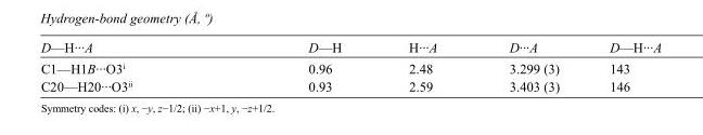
<table><tbody><tr><td>D—H···A</td><td>D—H</td><td>H···A</td><td>D···A</td><td>D—H···A</td></tr><tr><td>C1—H1B···O3<sup>i</sup></td><td>0.96</td><td>2.48</td><td>3.299 (3)</td><td>143</td></tr><tr><td>C20—H20···O3<sup>ii</sup></td><td>0.93</td><td>2.59</td><td>3.403 (3)</td><td>146</td></tr></tbody></table>